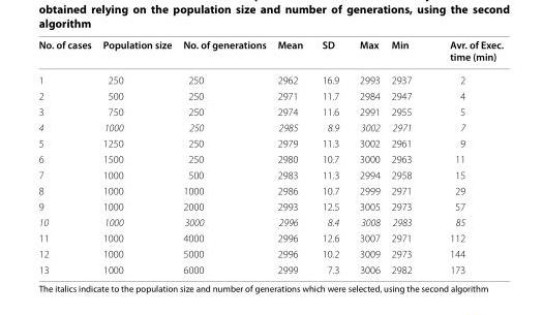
<table><thead><tr><td>No. of cases</td><td>Population size</td><td>No. of generations</td><td>Mean</td><td>SD</td><td>Max</td><td>Min</td><td>Avr. of Exec. time (min)</td></tr></thead><tbody><tr><td>1</td><td>250</td><td>250</td><td>2962</td><td>16.9</td><td>2993</td><td>2937</td><td>2</td></tr><tr><td>2</td><td>500</td><td>250</td><td>2971</td><td>11.7</td><td>2984</td><td>2947</td><td>4</td></tr><tr><td>3</td><td>750</td><td>250</td><td>2974</td><td>11.6</td><td>2991</td><td>2955</td><td>5</td></tr><tr><td>4</td><td>1000</td><td>250</td><td>2985</td><td>8.9</td><td>3002</td><td>2971</td><td>7</td></tr><tr><td>5</td><td>1250</td><td>250</td><td>2979</td><td>11.3</td><td>3002</td><td>2961</td><td>9</td></tr><tr><td>6</td><td>1500</td><td>250</td><td>2980</td><td>10.7</td><td>3000</td><td>2963</td><td>11</td></tr><tr><td>7</td><td>1000</td><td>500</td><td>2983</td><td>11.3</td><td>2994</td><td>2958</td><td>15</td></tr><tr><td>8</td><td>1000</td><td>1000</td><td>2986</td><td>10.7</td><td>2999</td><td>2971</td><td>29</td></tr><tr><td>9</td><td>1000</td><td>2000</td><td>2993</td><td>12.5</td><td>3005</td><td>2973</td><td>57</td></tr><tr><td>10</td><td>1000</td><td>3000</td><td>2996</td><td>8.4</td><td>3008</td><td>2983</td><td>85</td></tr><tr><td>11</td><td>1000</td><td>4000</td><td>2996</td><td>12.6</td><td>3007</td><td>2971</td><td>112</td></tr><tr><td>12</td><td>1000</td><td>5000</td><td>2996</td><td>10.2</td><td>3009</td><td>2973</td><td>144</td></tr><tr><td>13</td><td>1000</td><td>6000</td><td>2999</td><td>7.3</td><td>3006</td><td>2982</td><td>173</td></tr></tbody></table>